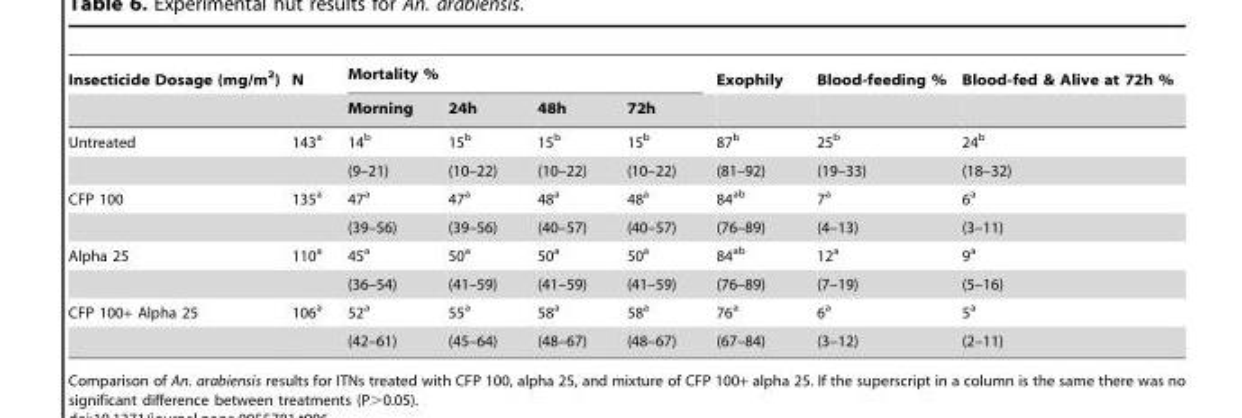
<table><thead><tr><td rowspan="2">Insecticide Dosage (mg/m<sup>2</sup>)</td><td rowspan="2">N</td><td colspan="4">Mortality %</td><td rowspan="2">Exophily</td><td rowspan="2">Blood-feeding %</td><td rowspan="2">Blood-fed &amp; Alive at 72h %</td></tr><tr><td>Morning</td><td>24h</td><td>48h</td><td>72h</td></tr></thead><tbody><tr><td rowspan="2">Untreated</td><td>143<sup>a</sup></td><td>14<sup>b</sup></td><td>15<sup>b</sup></td><td>15<sup>b</sup></td><td>15<sup>b</sup></td><td>87<sup>b</sup></td><td>25<sup>b</sup></td><td>24<sup>b</sup></td></tr><tr><td></td><td>(9–21)</td><td>(10–22)</td><td>(10–22)</td><td>(10–22)</td><td>(81–92)</td><td>(19–33)</td><td>(18–32)</td></tr><tr><td rowspan="2">CFP 100</td><td>135<sup>a</sup></td><td>47<sup>a</sup></td><td>47<sup>a</sup></td><td>48<sup>a</sup></td><td>48<sup>a</sup></td><td>84<sup>ab</sup></td><td>7<sup>a</sup></td><td>6<sup>a</sup></td></tr><tr><td></td><td>(39–56)</td><td>(39–56)</td><td>(40–57)</td><td>(40–57)</td><td>(76–89)</td><td>(4–13)</td><td>(3–11)</td></tr><tr><td rowspan="2">Alpha 25</td><td>110<sup>a</sup></td><td>45<sup>a</sup></td><td>50<sup>a</sup></td><td>50<sup>a</sup></td><td>50<sup>a</sup></td><td>84<sup>ab</sup></td><td>12<sup>a</sup></td><td>9<sup>a</sup></td></tr><tr><td></td><td>(36–54)</td><td>(41–59)</td><td>(41–59)</td><td>(41–59)</td><td>(76–89)</td><td>(7–19)</td><td>(5–16)</td></tr><tr><td rowspan="2">CFP 100+ Alpha 25</td><td>106<sup>a</sup></td><td>52<sup>a</sup></td><td>55<sup>a</sup></td><td>58<sup>a</sup></td><td>58<sup>a</sup></td><td>76<sup>a</sup></td><td>6<sup>a</sup></td><td>5<sup>a</sup></td></tr><tr><td></td><td>(42–61)</td><td>(45–64)</td><td>(48–67)</td><td>(48–67)</td><td>(67–84)</td><td>(3–12)</td><td>(2–11)</td></tr></tbody></table>